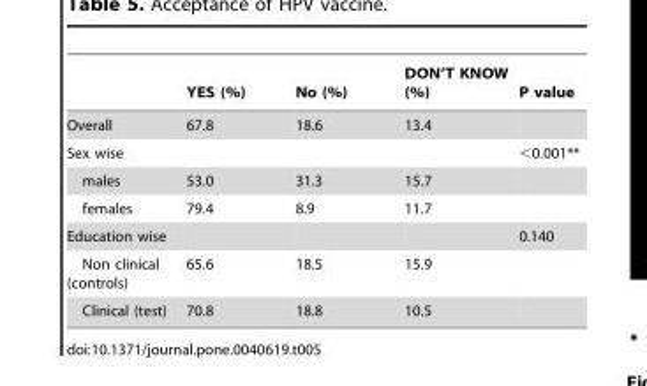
<table><thead><tr><td></td><td>YES (%)</td><td>No (%)</td><td>DON’T KNOW (%)</td><td>P value</td></tr></thead><tbody><tr><td>Overall</td><td>67.8</td><td>18.6</td><td>13.4</td><td></td></tr><tr><td>Sex wise</td><td></td><td></td><td></td><td>&lt;0.001**</td></tr><tr><td>males</td><td>53.0</td><td>31.3</td><td>15.7</td><td></td></tr><tr><td>females</td><td>79.4</td><td>8.9</td><td>11.7</td><td></td></tr><tr><td>Education wise</td><td></td><td></td><td></td><td>0.140</td></tr><tr><td>Non clinical (controls)</td><td>65.6</td><td>18.5</td><td>15.9</td><td></td></tr><tr><td>Clinical (test)</td><td>70.8</td><td>18.8</td><td>10.5</td><td></td></tr></tbody></table>